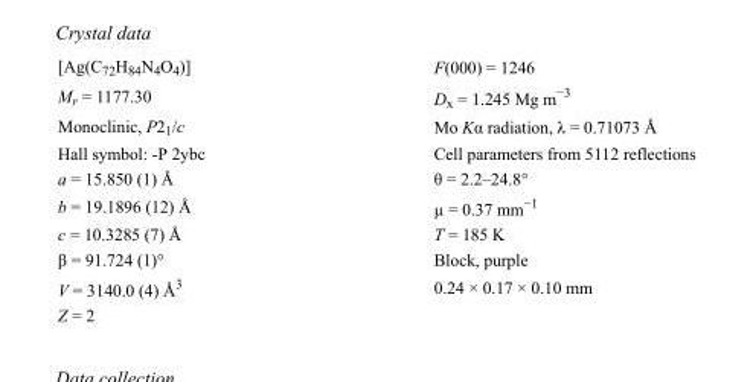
<table><tbody><tr><td>[Ag(C<sub>72</sub>H<sub>84</sub>N<sub>4</sub>O<sub>4</sub>)]</td><td>F(000) = 1246</td></tr><tr><td>M<sub>r</sub> = 1177.30</td><td>D<sub>x</sub> = 1.245 Mg m<sup>−3</sup></td></tr><tr><td>Monoclinic, P2<sub>1</sub>/c</td><td>Mo Kα radiation, λ = 0.71073 Å</td></tr><tr><td>Hall symbol: -P 2ybc</td><td>Cell parameters from 5112 reflections</td></tr><tr><td>a = 15.850 (1) Å</td><td>θ = 2.2–24.8°</td></tr><tr><td>b = 19.1896 (12) Å</td><td>µ = 0.37 mm<sup>−1</sup></td></tr><tr><td>c = 10.3285 (7) Å</td><td>T = 185 K</td></tr><tr><td>β = 91.724 (1)°</td><td>Block, purple</td></tr><tr><td>V = 3140.0 (4) Å<sup>3</sup></td><td>0.24 × 0.17 × 0.10 mm</td></tr><tr><td>Z = 2</td><td></td></tr></tbody></table>